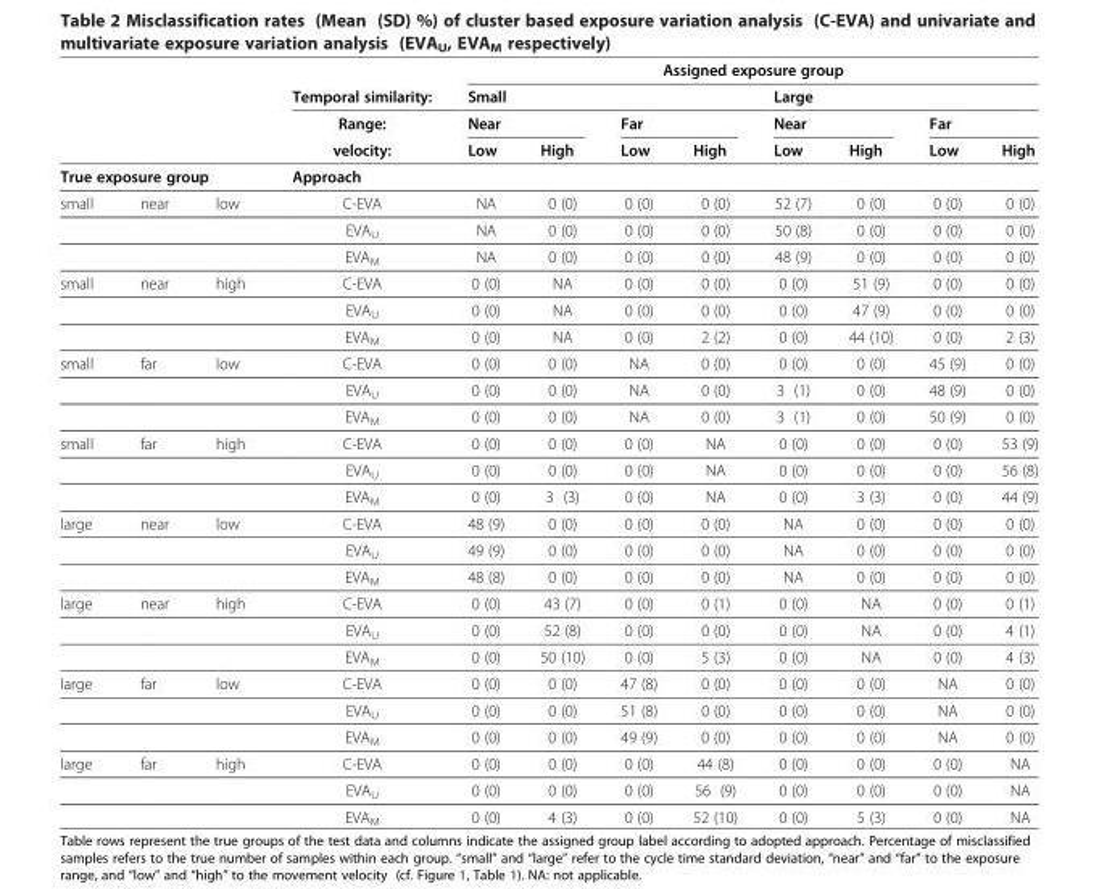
<table><thead><tr><td rowspan="4"></td><td rowspan="4"></td><td rowspan="4"></td><td rowspan="4">Temporal similarity: Range: velocity:</td><td colspan="8">Assigned exposure group</td></tr><tr><td rowspan="3">Small Near Low</td><td rowspan="3">High</td><td rowspan="3">Far Low</td><td rowspan="3">High</td><td rowspan="3">Large Near Low</td><td rowspan="3">High</td><td rowspan="3">Far Low</td><td rowspan="3">High</td></tr><tr></tr><tr></tr></thead><tbody><tr><td colspan="3">True exposure group</td><td>Approach</td><td></td><td></td><td></td><td></td><td></td><td></td><td></td><td></td></tr><tr><td rowspan="3">small</td><td>near</td><td>low</td><td>C-EVA</td><td>NA</td><td>0 (0)</td><td>0 (0)</td><td>0 (0)</td><td>52 (7)</td><td>0 (0)</td><td>0 (0)</td><td>0 (0)</td></tr><tr><td></td><td></td><td>EVA<sub>U</sub></td><td>NA</td><td>0 (0)</td><td>0 (0)</td><td>0 (0)</td><td>50 (8)</td><td>0 (0)</td><td>0 (0)</td><td>0 (0)</td></tr><tr><td></td><td></td><td>EVA<sub>M</sub></td><td>NA</td><td>0 (0)</td><td>0 (0)</td><td>0 (0)</td><td>48 (9)</td><td>0 (0)</td><td>0 (0)</td><td>0 (0)</td></tr><tr><td rowspan="3">small</td><td>near</td><td>high</td><td>C-EVA</td><td>0 (0)</td><td>NA</td><td>0 (0)</td><td>0 (0)</td><td>0 (0)</td><td>51 (9)</td><td>0 (0)</td><td>0 (0)</td></tr><tr><td></td><td></td><td>EVA<sub>U</sub></td><td>0 (0)</td><td>NA</td><td>0 (0)</td><td>0 (0)</td><td>0 (0)</td><td>47 (9)</td><td>0 (0)</td><td>0 (0)</td></tr><tr><td></td><td></td><td>EVA<sub>M</sub></td><td>0 (0)</td><td>NA</td><td>0 (0)</td><td>2 (2)</td><td>0 (0)</td><td>44 (10)</td><td>0 (0)</td><td>2 (3)</td></tr><tr><td rowspan="3">small</td><td>far</td><td>low</td><td>C-EVA</td><td>0 (0)</td><td>0 (0)</td><td>NA</td><td>0 (0)</td><td>0 (0)</td><td>0 (0)</td><td>45 (9)</td><td>0 (0)</td></tr><tr><td></td><td></td><td>EVA<sub>U</sub></td><td>0 (0)</td><td>0 (0)</td><td>NA</td><td>0 (0)</td><td>3 (1)</td><td>0 (0)</td><td>48 (9)</td><td>0 (0)</td></tr><tr><td></td><td></td><td>EVA<sub>M</sub></td><td>0 (0)</td><td>0 (0)</td><td>NA</td><td>0 (0)</td><td>3 (1)</td><td>0 (0)</td><td>50 (9)</td><td>0 (0)</td></tr><tr><td rowspan="3">small</td><td>far</td><td>high</td><td>C-EVA</td><td>0 (0)</td><td>0 (0)</td><td>0 (0)</td><td>NA</td><td>0 (0)</td><td>0 (0)</td><td>0 (0)</td><td>53 (9)</td></tr><tr><td></td><td></td><td>EVA<sub>U</sub></td><td>0 (0)</td><td>0 (0)</td><td>0 (0)</td><td>NA</td><td>0 (0)</td><td>0 (0)</td><td>0 (0)</td><td>56 (8)</td></tr><tr><td></td><td></td><td>EVA<sub>M</sub></td><td>0 (0)</td><td>3 (3)</td><td>0 (0)</td><td>NA</td><td>0 (0)</td><td>3 (3)</td><td>0 (0)</td><td>44 (9)</td></tr><tr><td rowspan="3">large</td><td>near</td><td>low</td><td>C-EVA</td><td>48 (9)</td><td>0 (0)</td><td>0 (0)</td><td>0 (0)</td><td>NA</td><td>0 (0)</td><td>0 (0)</td><td>0 (0)</td></tr><tr><td></td><td></td><td>EVA<sub>U</sub></td><td>49 (9)</td><td>0 (0)</td><td>0 (0)</td><td>0 (0)</td><td>NA</td><td>0 (0)</td><td>0 (0)</td><td>0 (0)</td></tr><tr><td></td><td></td><td>EVA<sub>M</sub></td><td>48 (8)</td><td>0 (0)</td><td>0 (0)</td><td>0 (0)</td><td>NA</td><td>0 (0)</td><td>0 (0)</td><td>0 (0)</td></tr><tr><td rowspan="3">large</td><td>near</td><td>high</td><td>C-EVA</td><td>0 (0)</td><td>43 (7)</td><td>0 (0)</td><td>0 (1)</td><td>0 (0)</td><td>NA</td><td>0 (0)</td><td>0 (1)</td></tr><tr><td></td><td></td><td>EVA<sub>U</sub></td><td>0 (0)</td><td>52 (8)</td><td>0 (0)</td><td>0 (0)</td><td>0 (0)</td><td>NA</td><td>0 (0)</td><td>4 (1)</td></tr><tr><td></td><td></td><td>EVA<sub>M</sub></td><td>0 (0)</td><td>50 (10)</td><td>0 (0)</td><td>5 (3)</td><td>0 (0)</td><td>NA</td><td>0 (0)</td><td>4 (3)</td></tr><tr><td rowspan="3">large</td><td>far</td><td>low</td><td>C-EVA</td><td>0 (0)</td><td>0 (0)</td><td>47 (8)</td><td>0 (0)</td><td>0 (0)</td><td>0 (0)</td><td>NA</td><td>0 (0)</td></tr><tr><td></td><td></td><td>EVA<sub>U</sub></td><td>0 (0)</td><td>0 (0)</td><td>51 (8)</td><td>0 (0)</td><td>0 (0)</td><td>0 (0)</td><td>NA</td><td>0 (0)</td></tr><tr><td></td><td></td><td>EVA<sub>M</sub></td><td>0 (0)</td><td>0 (0)</td><td>49 (9)</td><td>0 (0)</td><td>0 (0)</td><td>0 (0)</td><td>NA</td><td>0 (0)</td></tr><tr><td rowspan="3">large</td><td>far</td><td>high</td><td>C-EVA</td><td>0 (0)</td><td>0 (0)</td><td>0 (0)</td><td>44 (8)</td><td>0 (0)</td><td>0 (0)</td><td>0 (0)</td><td>NA</td></tr><tr><td></td><td></td><td>EVA<sub>U</sub></td><td>0 (0)</td><td>0 (0)</td><td>0 (0)</td><td>56 (9)</td><td>0 (0)</td><td>0 (0)</td><td>0 (0)</td><td>NA</td></tr><tr><td></td><td></td><td>EVA<sub>M</sub></td><td>0 (0)</td><td>4 (3)</td><td>0 (0)</td><td>52 (10)</td><td>0 (0)</td><td>5 (3)</td><td>0 (0)</td><td>NA</td></tr></tbody></table>